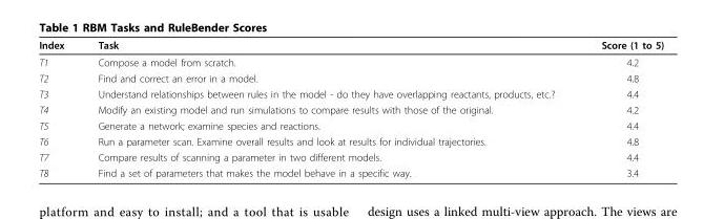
<table><thead><tr><td>Index</td><td>Task</td><td>Score (1 to 5)</td></tr></thead><tbody><tr><td>T1</td><td>Compose a model from scratch.</td><td>4.2</td></tr><tr><td>T2</td><td>Find and correct an error in a model.</td><td>4.8</td></tr><tr><td>T3</td><td>Understand relationships between rules in the model - do they have overlapping reactants, products, etc.?</td><td>4.4</td></tr><tr><td>T4</td><td>Modify an existing model and run simulations to compare results with those of the original.</td><td>4.2</td></tr><tr><td>T5</td><td>Generate a network; examine species and reactions.</td><td>4.4</td></tr><tr><td>T6</td><td>Run a parameter scan. Examine overall results and look at results for individual trajectories.</td><td>4.8</td></tr><tr><td>T7</td><td>Compare results of scanning a parameter in two different models.</td><td>4.4</td></tr><tr><td>T8</td><td>Find a set of parameters that makes the model behave in a specific way.</td><td>3.4</td></tr></tbody></table>